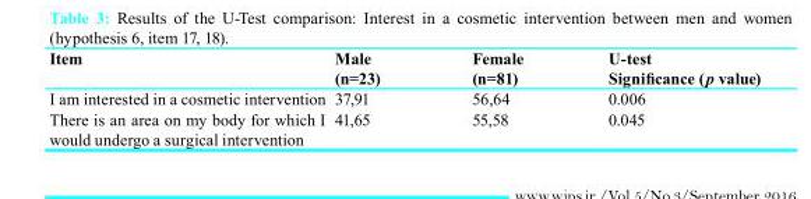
<table><thead><tr><td>Item</td><td>Male (n=23)</td><td>Female (n=81)</td><td>U-test Significance (p value)</td></tr></thead><tbody><tr><td>I am interested in a cosmetic intervention</td><td>37,91</td><td>56,64</td><td>0.006</td></tr><tr><td>There is an area on my body for which I would undergo a surgical intervention</td><td>41,65</td><td>55,58</td><td>0.045</td></tr></tbody></table>